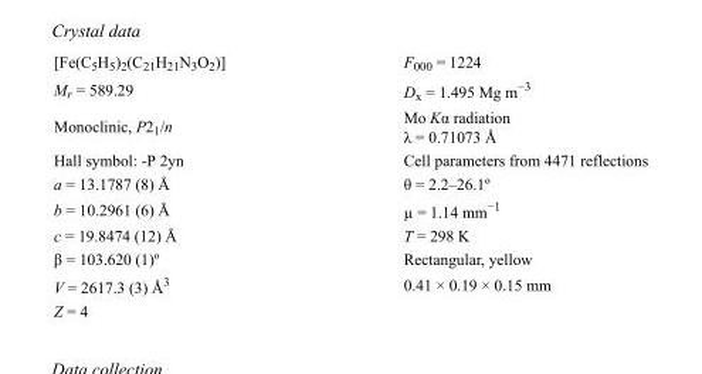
<table><tbody><tr><td>[Fe(C<sub>5</sub>H<sub>5</sub>)<sub>2</sub>(C<sub>21</sub>H<sub>21</sub>N<sub>3</sub>O<sub>2</sub>)]</td><td>F000 = 1224</td></tr><tr><td>M<sub>r</sub> = 589.29</td><td>D<sub>x</sub> = 1.495 Mg m<sup>−3</sup></td></tr><tr><td>Monoclinic, P2<sub>1</sub>/n</td><td>Mo Kα radiation λ = 0.71073 Å</td></tr><tr><td>Hall symbol: -P 2yn</td><td>Cell parameters from 4471 reflections</td></tr><tr><td>a = 13.1787 (8) Å</td><td>θ = 2.2–26.1º</td></tr><tr><td>b = 10.2961 (6) Å</td><td>µ = 1.14 mm<sup>−1</sup></td></tr><tr><td>c = 19.8474 (12) Å</td><td>T = 298 K</td></tr><tr><td>β = 103.620 (1)º</td><td>Rectangular, yellow</td></tr><tr><td>V = 2617.3 (3) Å<sup>3</sup></td><td>0.41 × 0.19 × 0.15 mm</td></tr><tr><td>Z = 4</td><td></td></tr></tbody></table>